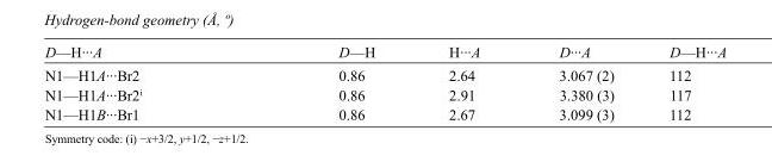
<table><tbody><tr><td>D—H···A</td><td>D—H</td><td>H···A</td><td>D···A</td><td>D—H···A</td></tr><tr><td>N1—H1A···Br2</td><td>0.86</td><td>2.64</td><td>3.067 (2)</td><td>112</td></tr><tr><td>N1—H1A···Br2<sup>i</sup></td><td>0.86</td><td>2.91</td><td>3.380 (3)</td><td>117</td></tr><tr><td>N1—H1B···Br1</td><td>0.86</td><td>2.67</td><td>3.099 (3)</td><td>112</td></tr></tbody></table>